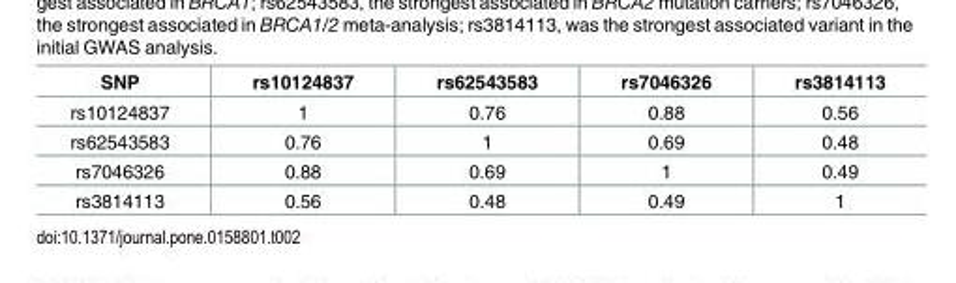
<table><thead><tr><td>SNP</td><td>rs10124837</td><td>rs62543583</td><td>rs7046326</td><td>rs3814113</td></tr></thead><tbody><tr><td>rs10124837</td><td>1</td><td>0.76</td><td>0.88</td><td>0.56</td></tr><tr><td>rs62543583</td><td>0.76</td><td>1</td><td>0.69</td><td>0.48</td></tr><tr><td>rs7046326</td><td>0.88</td><td>0.69</td><td>1</td><td>0.49</td></tr><tr><td>rs3814113</td><td>0.56</td><td>0.48</td><td>0.49</td><td>1</td></tr></tbody></table>